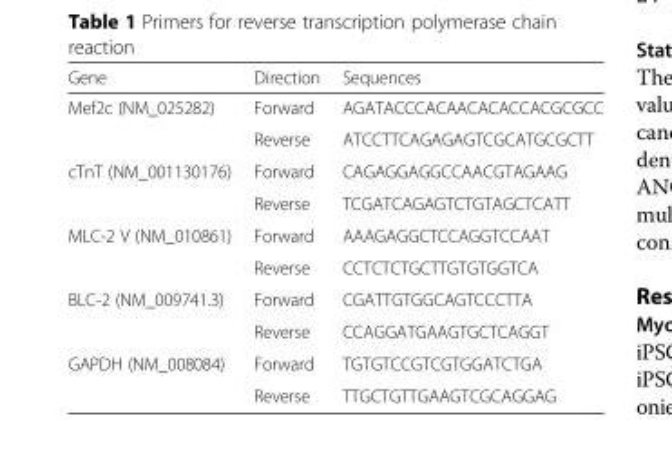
<table><thead><tr><td>Gene</td><td>Direction</td><td>Sequences</td></tr></thead><tbody><tr><td rowspan="2">Mef2c (NM_025282)</td><td>Forward</td><td>AGATACCCACAACACACCACGCGCC</td></tr><tr><td>Reverse</td><td>ATCCTTCAGAGAGTCGCATGCGCTT</td></tr><tr><td rowspan="2">cTnT (NM_001130176)</td><td>Forward</td><td>CAGAGGAGGCCAACGTAGAAG</td></tr><tr><td>Reverse</td><td>TCGATCAGAGTCTGTAGCTCATT</td></tr><tr><td rowspan="2">MLC-2 V (NM_010861)</td><td>Forward</td><td>AAAGAGGCTCCAGGTCCAAT</td></tr><tr><td>Reverse</td><td>CCTCTCTGCTTGTGTGGTCA</td></tr><tr><td rowspan="2">BLC-2 (NM_009741.3)</td><td>Forward</td><td>CGATTGTGGCAGTCCCTTA</td></tr><tr><td>Reverse</td><td>CCAGGATGAAGTGCTCAGGT</td></tr><tr><td rowspan="2">GAPDH (NM_008084)</td><td>Forward</td><td>TGTGTCCGTCGTGGATCTGA</td></tr><tr><td>Reverse</td><td>TTGCTGTTGAAGTCGCAGGAG</td></tr></tbody></table>